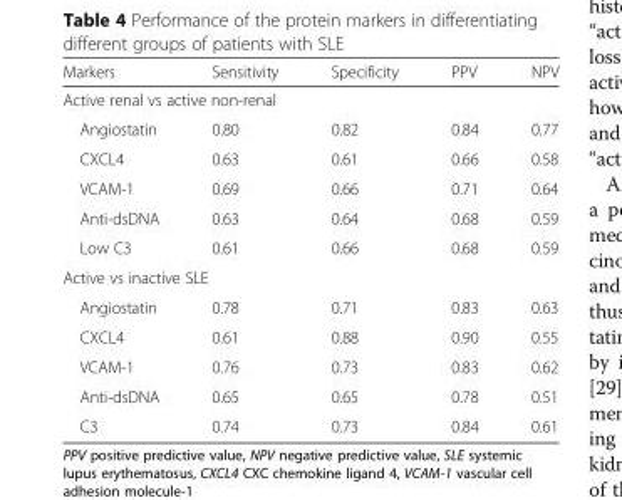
<table><thead><tr><td>Markers</td><td>Sensitivity</td><td>Specificity</td><td>PPV</td><td>NPV</td></tr></thead><tbody><tr><td colspan="5">Active renal vs active non-renal</td></tr><tr><td>Angiostatin</td><td>0.80</td><td>0.82</td><td>0.84</td><td>0.77</td></tr><tr><td>CXCL4</td><td>0.63</td><td>0.61</td><td>0.66</td><td>0.58</td></tr><tr><td>VCAM-1</td><td>0.69</td><td>0.66</td><td>0.71</td><td>0.64</td></tr><tr><td>Anti-dsDNA</td><td>0.63</td><td>0.64</td><td>0.68</td><td>0.59</td></tr><tr><td>Low C3</td><td>0.61</td><td>0.66</td><td>0.68</td><td>0.59</td></tr><tr><td colspan="5">Active vs inactive SLE</td></tr><tr><td>Angiostatin</td><td>0.78</td><td>0.71</td><td>0.83</td><td>0.63</td></tr><tr><td>CXCL4</td><td>0.61</td><td>0.88</td><td>0.90</td><td>0.55</td></tr><tr><td>VCAM-1</td><td>0.76</td><td>0.73</td><td>0.83</td><td>0.62</td></tr><tr><td>Anti-dsDNA</td><td>0.65</td><td>0.65</td><td>0.78</td><td>0.51</td></tr><tr><td>C3</td><td>0.74</td><td>0.73</td><td>0.84</td><td>0.61</td></tr></tbody></table>